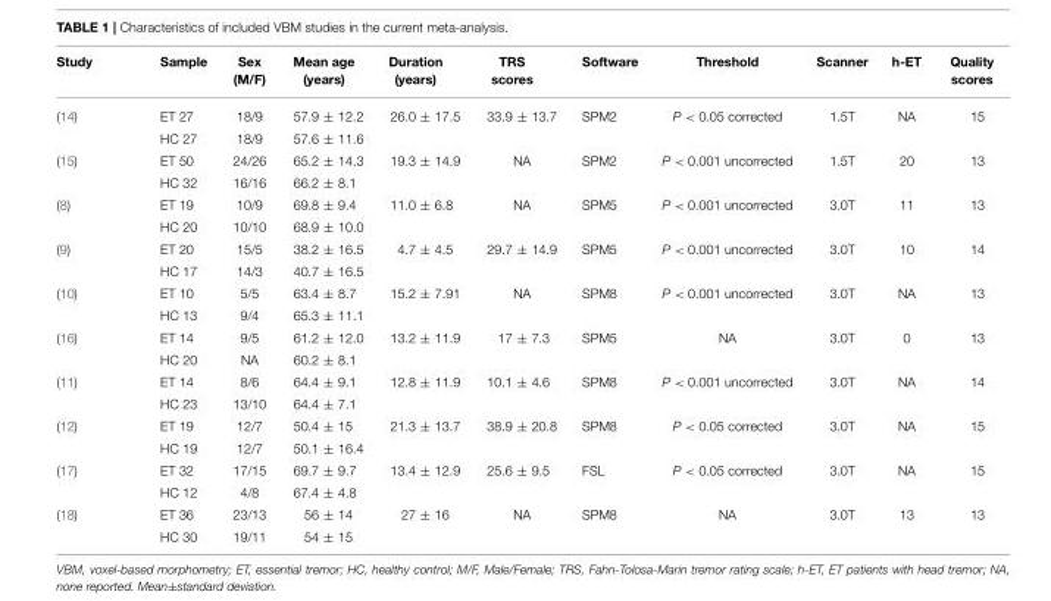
<table><thead><tr><td>Study</td><td>Sample</td><td>Sex (M/F)</td><td>Mean age (years)</td><td>Duration (years)</td><td>TRS scores</td><td>Software</td><td>Threshold</td><td>Scanner</td><td>h-ET</td><td>Quality scores</td></tr></thead><tbody><tr><td rowspan="2">(14)</td><td>ET 27</td><td>18/9</td><td>57.9 ± 12.2</td><td>26.0 ± 17.5</td><td>33.9 ± 13.7</td><td>SPM2</td><td>P &lt; 0.05 corrected</td><td>1.5T</td><td>NA</td><td>15</td></tr><tr><td>HC 27</td><td>18/9</td><td>57.6 ± 11.6</td><td></td><td></td><td></td><td></td><td></td><td></td><td></td></tr><tr><td rowspan="2">(15)</td><td>ET 50</td><td>24/26</td><td>65.2 ± 14.3</td><td>19.3 ± 14.9</td><td>NA</td><td>SPM2</td><td>P &lt; 0.001 uncorrected</td><td>1.5T</td><td>20</td><td>13</td></tr><tr><td>HC 32</td><td>16/16</td><td>66.2 ± 8.1</td><td></td><td></td><td></td><td></td><td></td><td></td><td></td></tr><tr><td rowspan="2">(8)</td><td>ET 19</td><td>10/9</td><td>69.8 ± 9.4</td><td>11.0 ± 6.8</td><td>NA</td><td>SPM5</td><td>P &lt; 0.001 uncorrected</td><td>3.0T</td><td>11</td><td>13</td></tr><tr><td>HC 20</td><td>10/10</td><td>68.9 ± 10.0</td><td></td><td></td><td></td><td></td><td></td><td></td><td></td></tr><tr><td rowspan="2">(9)</td><td>ET 20</td><td>15/5</td><td>38.2 ± 16.5</td><td>4.7 ± 4.5</td><td>29.7 ± 14.9</td><td>SPM5</td><td>P &lt; 0.001 uncorrected</td><td>3.0T</td><td>10</td><td>14</td></tr><tr><td>HC 17</td><td>14/3</td><td>40.7 ± 16.5</td><td></td><td></td><td></td><td></td><td></td><td></td><td></td></tr><tr><td rowspan="2">(10)</td><td>ET 10</td><td>5/5</td><td>63.4 ± 8.7</td><td>15.2 ± 7.91</td><td>NA</td><td>SPM8</td><td>P &lt; 0.001 uncorrected</td><td>3.0T</td><td>NA</td><td>13</td></tr><tr><td>HC 13</td><td>9/4</td><td>65.3 ± 11.1</td><td></td><td></td><td></td><td></td><td></td><td></td><td></td></tr><tr><td rowspan="2">(16)</td><td>ET 14</td><td>9/5</td><td>61.2 ± 12.0</td><td>13.2 ± 11.9</td><td>17 ± 7.3</td><td>SPM5</td><td>NA</td><td>3.0T</td><td>0</td><td>13</td></tr><tr><td>HC 20</td><td>NA</td><td>60.2 ± 8.1</td><td></td><td></td><td></td><td></td><td></td><td></td><td></td></tr><tr><td rowspan="2">(11)</td><td>ET 14</td><td>8/6</td><td>64.4 ± 9.1</td><td>12.8 ± 11.9</td><td>10.1 ± 4.6</td><td>SPM8</td><td>P &lt; 0.001 uncorrected</td><td>3.0T</td><td>NA</td><td>14</td></tr><tr><td>HC 23</td><td>13/10</td><td>64.4 ± 7.1</td><td></td><td></td><td></td><td></td><td></td><td></td><td></td></tr><tr><td rowspan="2">(12)</td><td>ET 19</td><td>12/7</td><td>50.4 ± 15</td><td>21.3 ± 13.7</td><td>38.9 ± 20.8</td><td>SPM8</td><td>P &lt; 0.05 corrected</td><td>3.0T</td><td>NA</td><td>15</td></tr><tr><td>HC 19</td><td>12/7</td><td>50.1 ± 16.4</td><td></td><td></td><td></td><td></td><td></td><td></td><td></td></tr><tr><td rowspan="2">(17)</td><td>ET 32</td><td>17/15</td><td>69.7 ± 9.7</td><td>13.4 ± 12.9</td><td>25.6 ± 9.5</td><td>FSL</td><td>P &lt; 0.05 corrected</td><td>3.0T</td><td>NA</td><td>15</td></tr><tr><td>HC 12</td><td>4/8</td><td>67.4 ± 4.8</td><td></td><td></td><td></td><td></td><td></td><td></td><td></td></tr><tr><td rowspan="2">(18)</td><td>ET 36</td><td>23/13</td><td>56 ± 14</td><td>27 ± 16</td><td>NA</td><td>SPM8</td><td>NA</td><td>3.0T</td><td>13</td><td>13</td></tr><tr><td>HC 30</td><td>19/11</td><td>54 ± 15</td><td></td><td></td><td></td><td></td><td></td><td></td><td></td></tr></tbody></table>